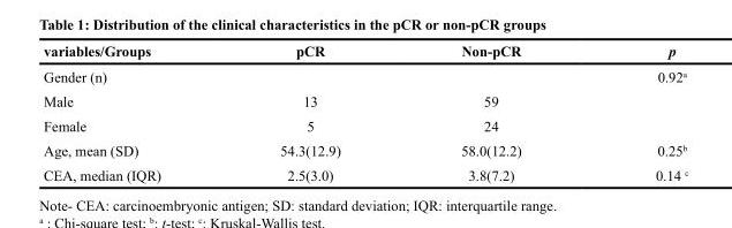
<table><thead><tr><td>variables/Groups</td><td>pCR</td><td>Non-pCR</td><td>p</td></tr></thead><tbody><tr><td>Gender (n)</td><td></td><td></td><td>0.92<sup>a</sup></td></tr><tr><td>Male</td><td>13</td><td>59</td><td></td></tr><tr><td>Female</td><td>5</td><td>24</td><td></td></tr><tr><td>Age, mean (SD)</td><td>54.3(12.9)</td><td>58.0(12.2)</td><td>0.25<sup>b</sup></td></tr><tr><td>CEA, median (IQR)</td><td>2.5(3.0)</td><td>3.8(7.2)</td><td>0.14 <sup>c</sup></td></tr></tbody></table>